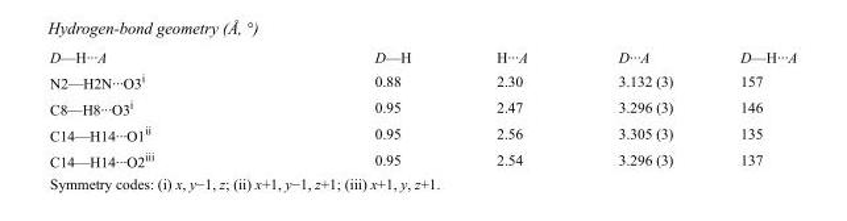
<table><tbody><tr><td>D—H···A</td><td>D—H</td><td>H···A</td><td>D···A</td><td>D—H···A</td></tr><tr><td>N2—H2N···O3<sup>i</sup></td><td>0.88</td><td>2.30</td><td>3.132 (3)</td><td>157</td></tr><tr><td>C8—H8···O3<sup>i</sup></td><td>0.95</td><td>2.47</td><td>3.296 (3)</td><td>146</td></tr><tr><td>C14—H14···O1<sup>ii</sup></td><td>0.95</td><td>2.56</td><td>3.305 (3)</td><td>135</td></tr><tr><td>C14—H14···O2<sup>iii</sup></td><td>0.95</td><td>2.54</td><td>3.296 (3)</td><td>137</td></tr></tbody></table>